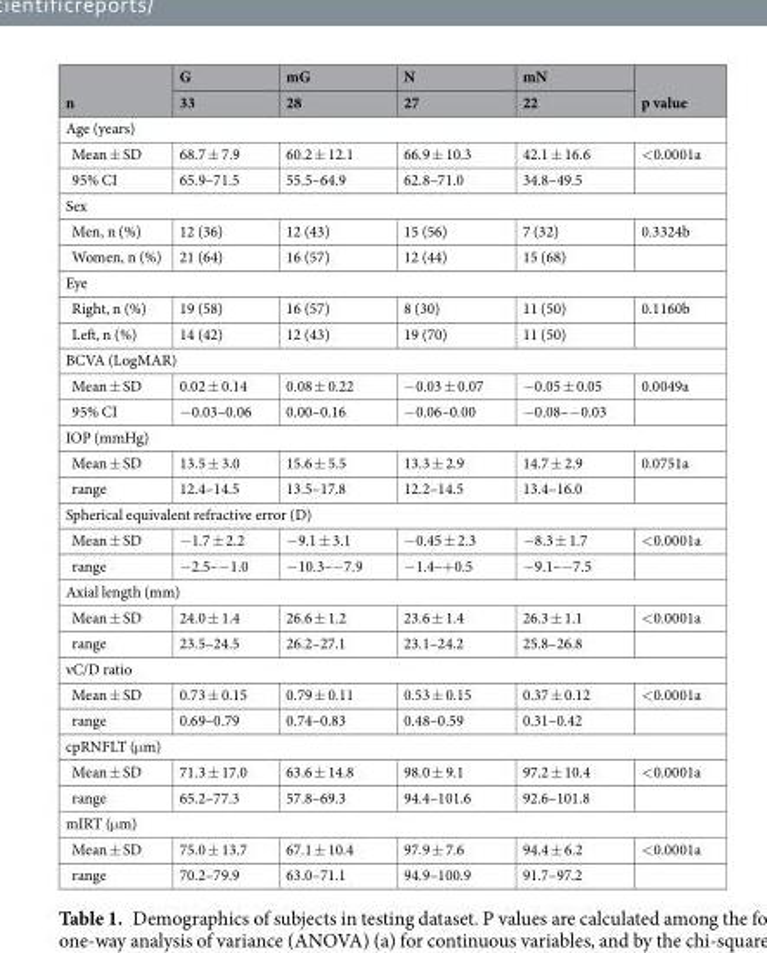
<table><thead><tr><td rowspan="2">n</td><td rowspan="2">G 33</td><td rowspan="2">mG 28</td><td rowspan="2">N 27</td><td rowspan="2">mN 22</td><td rowspan="2">p value</td></tr><tr></tr></thead><tbody><tr><td colspan="6">Age (years)</td></tr><tr><td>Mean ± SD</td><td>68.7 ± 7.9</td><td>60.2 ± 12.1</td><td>66.9 ± 10.3</td><td>42.1 ± 16.6</td><td>&lt;0.0001a</td></tr><tr><td>95% CI</td><td>65.9–71.5</td><td>55.5–64.9</td><td>62.8–71.0</td><td>34.8–49.5</td><td></td></tr><tr><td colspan="6">Sex</td></tr><tr><td>Men, n (%)</td><td>12 (36)</td><td>12 (43)</td><td>15 (56)</td><td>7 (32)</td><td>0.3324b</td></tr><tr><td>Women, n (%)</td><td>21 (64)</td><td>16 (57)</td><td>12 (44)</td><td>15 (68)</td><td></td></tr><tr><td colspan="6">Eye</td></tr><tr><td>Right, n (%)</td><td>19 (58)</td><td>16 (57)</td><td>8 (30)</td><td>11 (50)</td><td>0.1160b</td></tr><tr><td>Left, n (%)</td><td>14 (42)</td><td>12 (43)</td><td>19 (70)</td><td>11 (50)</td><td></td></tr><tr><td colspan="6">BCVA (LogMAR)</td></tr><tr><td>Mean ± SD</td><td>0.02 ± 0.14</td><td>0.08 ± 0.22</td><td>−0.03 ± 0.07</td><td>−0.05 ± 0.05</td><td>0.0049a</td></tr><tr><td>95% CI</td><td>−0.03–0.06</td><td>0.00–0.16</td><td>−0.06–0.00</td><td>−0.08–−0.03</td><td></td></tr><tr><td colspan="6">IOP (mmHg)</td></tr><tr><td>Mean ± SD</td><td>13.5 ± 3.0</td><td>15.6 ± 5.5</td><td>13.3 ± 2.9</td><td>14.7 ± 2.9</td><td>0.0751a</td></tr><tr><td>range</td><td>12.4–14.5</td><td>13.5–17.8</td><td>12.2–14.5</td><td>13.4–16.0</td><td></td></tr><tr><td colspan="6">Spherical equivalent refractive error (D)</td></tr><tr><td>Mean ± SD</td><td>−1.7 ± 2.2</td><td>−9.1 ± 3.1</td><td>−0.45 ± 2.3</td><td>−8.3 ± 1.7</td><td>&lt;0.0001a</td></tr><tr><td>range</td><td>−2.5–−1.0</td><td>−10.3–−7.9</td><td>−1.4–+0.5</td><td>−9.1–−7.5</td><td></td></tr><tr><td colspan="6">Axial length (mm)</td></tr><tr><td>Mean ± SD</td><td>24.0 ± 1.4</td><td>26.6 ± 1.2</td><td>23.6 ± 1.4</td><td>26.3 ± 1.1</td><td>&lt;0.0001a</td></tr><tr><td>range</td><td>23.5–24.5</td><td>26.2–27.1</td><td>23.1–24.2</td><td>25.8–26.8</td><td></td></tr><tr><td colspan="6">vC/D ratio</td></tr><tr><td>Mean ± SD</td><td>0.73 ± 0.15</td><td>0.79 ± 0.11</td><td>0.53 ± 0.15</td><td>0.37 ± 0.12</td><td>&lt;0.0001a</td></tr><tr><td>range</td><td>0.69–0.79</td><td>0.74–0.83</td><td>0.48–0.59</td><td>0.31–0.42</td><td></td></tr><tr><td colspan="6">cpRNFLT (μm)</td></tr><tr><td>Mean ± SD</td><td>71.3 ± 17.0</td><td>63.6 ± 14.8</td><td>98.0 ± 9.1</td><td>97.2 ± 10.4</td><td>&lt;0.0001a</td></tr><tr><td>range</td><td>65.2–77.3</td><td>57.8–69.3</td><td>94.4–101.6</td><td>92.6–101.8</td><td></td></tr><tr><td colspan="6">mIRT (μm)</td></tr><tr><td>Mean ± SD</td><td>75.0 ± 13.7</td><td>67.1 ± 10.4</td><td>97.9 ± 7.6</td><td>94.4 ± 6.2</td><td>&lt;0.0001a</td></tr><tr><td>range</td><td>70.2–79.9</td><td>63.0–71.1</td><td>94.9–100.9</td><td>91.7–97.2</td><td></td></tr></tbody></table>